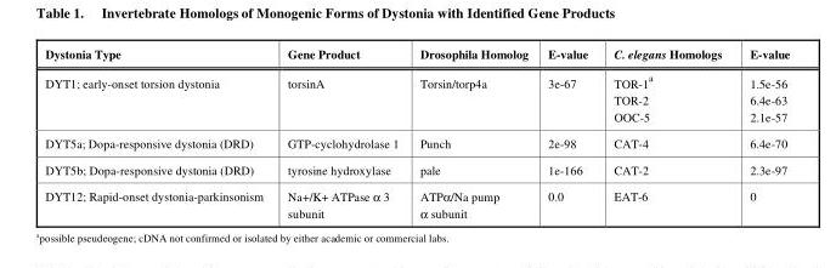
<table><thead><tr><td>Dystonia Type</td><td>Gene Product</td><td>Drosophila Homolog</td><td>E-value</td><td>C. elegans Homologs</td><td>E-value</td></tr></thead><tbody><tr><td>DYT1; early-onset torsion dystonia</td><td>torsinA</td><td>Torsin/torp4a</td><td>3e-67</td><td>TOR-1<sup>a</sup> TOR-2 OOC-5</td><td>1.5e-56 6.4e-63 2.1e-57</td></tr><tr><td>DYT5a; Dopa-responsive dystonia (DRD)</td><td>GTP-cyclohydrolase 1</td><td>Punch</td><td>2e-98</td><td>CAT-4</td><td>6.4e-70</td></tr><tr><td>DYT5b; Dopa-responsive dystonia (DRD)</td><td>tyrosine hydroxylase</td><td>pale</td><td>1e-166</td><td>CAT-2</td><td>2.3e-97</td></tr><tr><td>DYT12; Rapid-onset dystonia-parkinsonism</td><td>Na+/K+ ATPase α 3 subunit</td><td>ATPα/Na pump α subunit</td><td>0.0</td><td>EAT-6</td><td>0</td></tr></tbody></table>